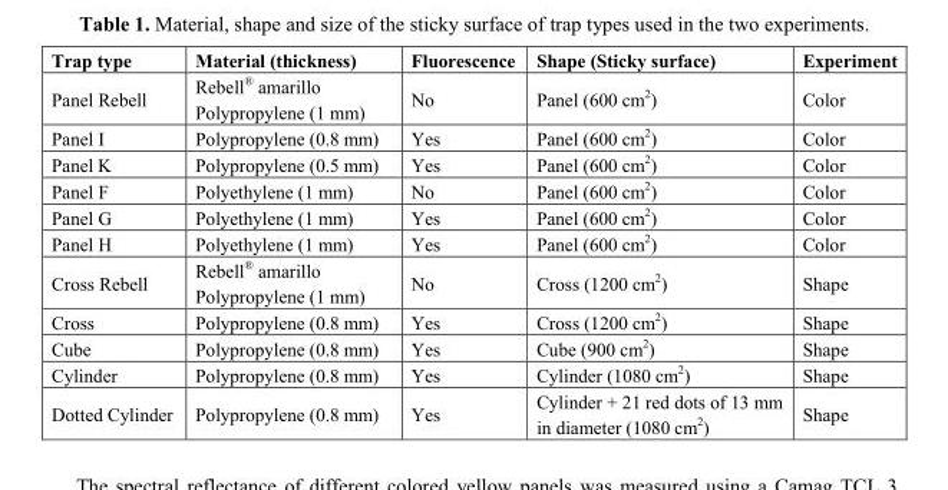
<table><thead><tr><td>Trap type</td><td>Material (thickness)</td><td>Fluorescence</td><td>Shape (Sticky surface)</td><td>Experiment</td></tr></thead><tbody><tr><td>Panel Rebell</td><td>Rebell<sup>®</sup> amarillo Polypropylene (1 mm)</td><td>No</td><td>Panel (600 cm<sup>2</sup>)</td><td>Color</td></tr><tr><td>Panel I</td><td>Polypropylene (0.8 mm)</td><td>Yes</td><td>Panel (600 cm<sup>2</sup>)</td><td>Color</td></tr><tr><td>Panel K</td><td>Polypropylene (0.5 mm)</td><td>Yes</td><td>Panel (600 cm<sup>2</sup>)</td><td>Color</td></tr><tr><td>Panel F</td><td>Polyethylene (1 mm)</td><td>No</td><td>Panel (600 cm<sup>2</sup>)</td><td>Color</td></tr><tr><td>Panel G</td><td>Polyethylene (1 mm)</td><td>Yes</td><td>Panel (600 cm<sup>2</sup>)</td><td>Color</td></tr><tr><td>Panel H</td><td>Polyethylene (1 mm)</td><td>Yes</td><td>Panel (600 cm<sup>2</sup>)</td><td>Color</td></tr><tr><td>Cross Rebell</td><td>Rebell<sup>®</sup> amarillo Polypropylene (1 mm)</td><td>No</td><td>Cross (1200 cm<sup>2</sup>)</td><td>Shape</td></tr><tr><td>Cross</td><td>Polypropylene (0.8 mm)</td><td>Yes</td><td>Cross (1200 cm<sup>2</sup>)</td><td>Shape</td></tr><tr><td>Cube</td><td>Polypropylene (0.8 mm)</td><td>Yes</td><td>Cube (900 cm<sup>2</sup>)</td><td>Shape</td></tr><tr><td>Cylinder</td><td>Polypropylene (0.8 mm)</td><td>Yes</td><td>Cylinder (1080 cm<sup>2</sup>)</td><td>Shape</td></tr><tr><td>Dotted Cylinder</td><td>Polypropylene (0.8 mm)</td><td>Yes</td><td>Cylinder + 21 red dots of 13 mm in diameter (1080 cm<sup>2</sup>)</td><td>Shape</td></tr></tbody></table>